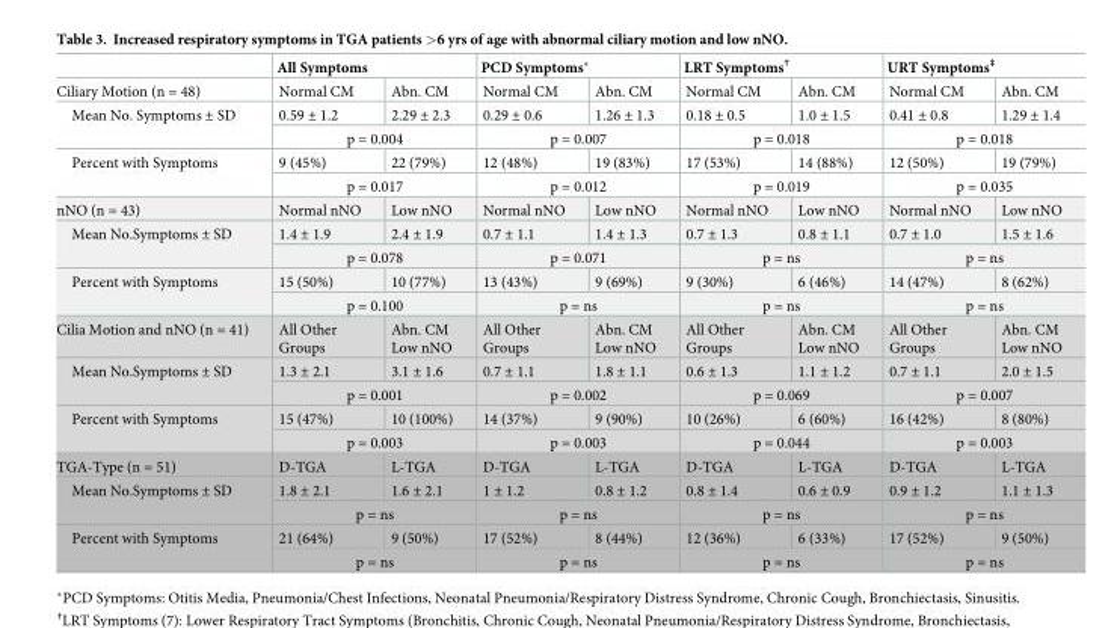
<table><thead><tr><td rowspan="2">Ciliary Motion (n = 48)</td><td colspan="2">All Symptoms</td><td colspan="2">PCD Symptoms*</td><td colspan="2">LRT Symptoms<sup>†</sup></td><td colspan="2">URT Symptoms<sup>‡</sup></td></tr><tr><td>Normal CM</td><td>Abn. CM</td><td>Normal CM</td><td>Abn. CM</td><td>Normal CM</td><td>Abn. CM</td><td>Normal CM</td><td>Abn. CM</td></tr></thead><tbody><tr><td rowspan="2">Mean No. Symptoms ± SD</td><td>0.59 ± 1.2</td><td>2.29 ± 2.3</td><td>0.29 ± 0.6</td><td>1.26 ± 1.3</td><td>0.18 ± 0.5</td><td>1.0 ± 1.5</td><td>0.41 ± 0.8</td><td>1.29 ± 1.4</td></tr><tr><td colspan="2">p = 0.004</td><td colspan="2">p = 0.007</td><td colspan="2">p = 0.018</td><td colspan="2">p = 0.018</td></tr><tr><td rowspan="2">Percent with Symptoms</td><td>9 (45%)</td><td>22 (79%)</td><td>12 (48%)</td><td>19 (83%)</td><td>17 (53%)</td><td>14 (88%)</td><td>12 (50%)</td><td>19 (79%)</td></tr><tr><td colspan="2">p = 0.017</td><td colspan="2">p = 0.012</td><td colspan="2">p = 0.019</td><td colspan="2">p = 0.035</td></tr><tr><td>nNO (n = 43)</td><td>Normal nNO</td><td>Low nNO</td><td>Normal nNO</td><td>Low nNO</td><td>Normal nNO</td><td>Low nNO</td><td>Normal nNO</td><td>Low nNO</td></tr><tr><td rowspan="2">Mean No.Symptoms ± SD</td><td>1.4 ± 1.9</td><td>2.4 ± 1.9</td><td>0.7 ± 1.1</td><td>1.4 ± 1.3</td><td>0.7 ± 1.3</td><td>0.8 ± 1.1</td><td>0.7 ± 1.0</td><td>1.5 ± 1.6</td></tr><tr><td colspan="2">p = 0.078</td><td colspan="2">p = 0.071</td><td colspan="2">p = ns</td><td colspan="2">p = ns</td></tr><tr><td rowspan="2">Percent with Symptoms</td><td>15 (50%)</td><td>10 (77%)</td><td>13 (43%)</td><td>9 (69%)</td><td>9 (30%)</td><td>6 (46%)</td><td>14 (47%)</td><td>8 (62%)</td></tr><tr><td colspan="2">p = 0.100</td><td colspan="2">p = ns</td><td colspan="2">p = ns</td><td colspan="2">p = ns</td></tr><tr><td>Cilia Motion and nNO (n = 41)</td><td>All Other Groups</td><td>Abn. CM Low nNO</td><td>All Other Groups</td><td>Abn. CM Low nNO</td><td>All Other Groups</td><td>Abn. CM Low nNO</td><td>All Other Groups</td><td>Abn. CM Low nNO</td></tr><tr><td rowspan="2">Mean No.Symptoms ± SD</td><td>1.3 ± 2.1</td><td>3.1 ± 1.6</td><td>0.7 ± 1.1</td><td>1.8 ± 1.1</td><td>0.6 ± 1.3</td><td>1.1 ± 1.2</td><td>0.7 ± 1.1</td><td>2.0 ± 1.5</td></tr><tr><td colspan="2">p = 0.001</td><td colspan="2">p = 0.002</td><td colspan="2">p = 0.069</td><td colspan="2">p = 0.007</td></tr><tr><td rowspan="2">Percent with Symptoms</td><td>15 (47%)</td><td>10 (100%)</td><td>14 (37%)</td><td>9 (90%)</td><td>10 (26%)</td><td>6 (60%)</td><td>16 (42%)</td><td>8 (80%)</td></tr><tr><td colspan="2">p = 0.003</td><td colspan="2">p = 0.003</td><td colspan="2">p = 0.044</td><td colspan="2">p = 0.003</td></tr><tr><td>TGA-Type (n = 51)</td><td>D-TGA</td><td>L-TGA</td><td>D-TGA</td><td>L-TGA</td><td>D-TGA</td><td>L-TGA</td><td>D-TGA</td><td>L-TGA</td></tr><tr><td rowspan="2">Mean No.Symptoms ± SD</td><td>1.8 ± 2.1</td><td>1.6 ± 2.1</td><td>1 ± 1.2</td><td>0.8 ± 1.2</td><td>0.8 ± 1.4</td><td>0.6 ± 0.9</td><td>0.9 ± 1.2</td><td>1.1 ± 1.3</td></tr><tr><td colspan="2">p = ns</td><td colspan="2">p = ns</td><td colspan="2">p = ns</td><td colspan="2">p = ns</td></tr><tr><td rowspan="2">Percent with Symptoms</td><td>21 (64%)</td><td>9 (50%)</td><td>17 (52%)</td><td>8 (44%)</td><td>12 (36%)</td><td>6 (33%)</td><td>17 (52%)</td><td>9 (50%)</td></tr><tr><td colspan="2">p = ns</td><td colspan="2">p = ns</td><td colspan="2">p = ns</td><td colspan="2">p = ns</td></tr></tbody></table>